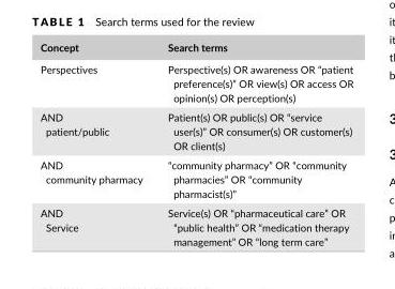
<table><thead><tr><td>Concept</td><td>Search terms</td></tr></thead><tbody><tr><td>Perspectives</td><td>Perspective(s) OR awareness OR “patient preference(s)” OR view(s) OR access OR opinion(s) OR perception(s)</td></tr><tr><td>AND patient/public</td><td>Patient(s) OR public(s) OR “service user(s)” OR consumer(s) OR customer(s) OR client(s)</td></tr><tr><td>AND community pharmacy</td><td>“community pharmacy” OR “community pharmacies” OR “community pharmacist(s)”</td></tr><tr><td>AND Service</td><td>Service(s) OR “pharmaceutical care” OR “public health” OR “medication therapy management” OR “long term care”</td></tr></tbody></table>